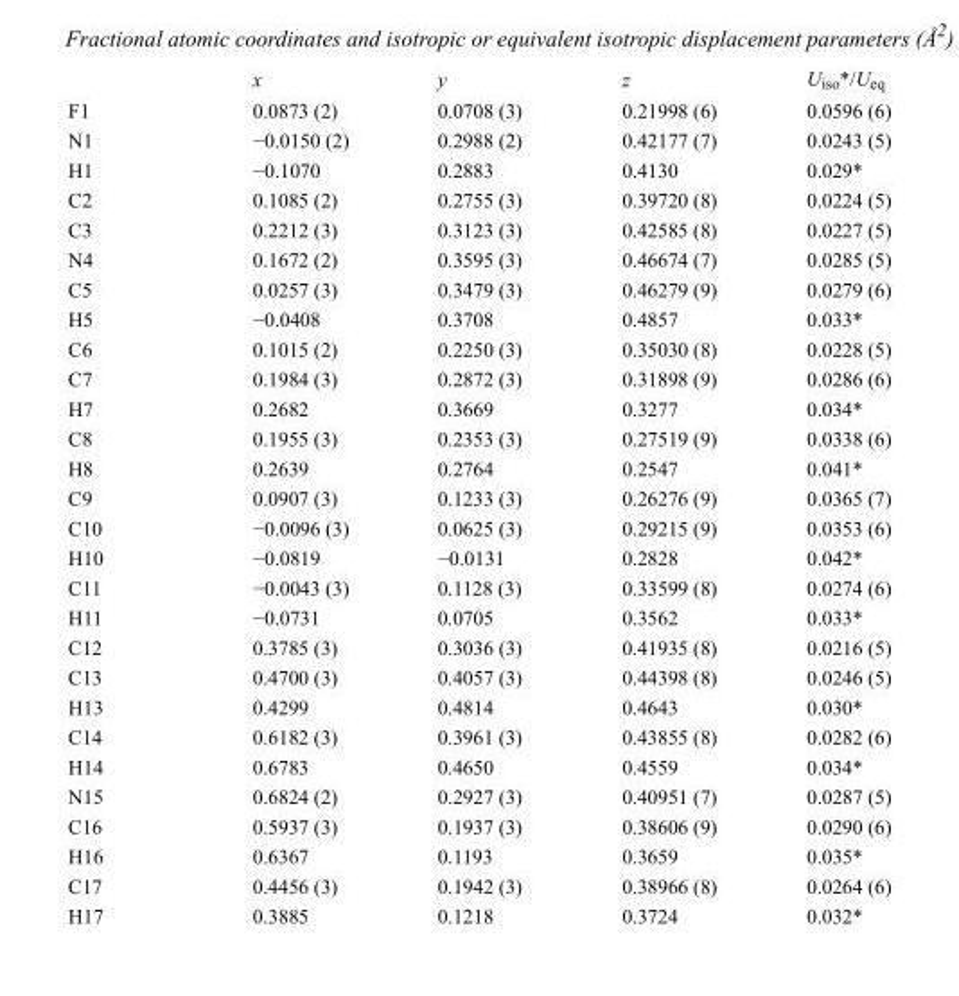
<table><thead><tr><td></td><td>x</td><td>y</td><td>z</td><td>U<sub>iso</sub>*/U<sub>eq</sub></td></tr></thead><tbody><tr><td>F1</td><td>0.0873 (2)</td><td>0.0708 (3)</td><td>0.21998 (6)</td><td>0.0596 (6)</td></tr><tr><td>N1</td><td>−0.0150 (2)</td><td>0.2988 (2)</td><td>0.42177 (7)</td><td>0.0243 (5)</td></tr><tr><td>H1</td><td>−0.1070</td><td>0.2883</td><td>0.4130</td><td>0.029*</td></tr><tr><td>C2</td><td>0.1085 (2)</td><td>0.2755 (3)</td><td>0.39720 (8)</td><td>0.0224 (5)</td></tr><tr><td>C3</td><td>0.2212 (3)</td><td>0.3123 (3)</td><td>0.42585 (8)</td><td>0.0227 (5)</td></tr><tr><td>N4</td><td>0.1672 (2)</td><td>0.3595 (3)</td><td>0.46674 (7)</td><td>0.0285 (5)</td></tr><tr><td>C5</td><td>0.0257 (3)</td><td>0.3479 (3)</td><td>0.46279 (9)</td><td>0.0279 (6)</td></tr><tr><td>H5</td><td>−0.0408</td><td>0.3708</td><td>0.4857</td><td>0.033*</td></tr><tr><td>C6</td><td>0.1015 (2)</td><td>0.2250 (3)</td><td>0.35030 (8)</td><td>0.0228 (5)</td></tr><tr><td>C7</td><td>0.1984 (3)</td><td>0.2872 (3)</td><td>0.31898 (9)</td><td>0.0286 (6)</td></tr><tr><td>H7</td><td>0.2682</td><td>0.3669</td><td>0.3277</td><td>0.034*</td></tr><tr><td>C8</td><td>0.1955 (3)</td><td>0.2353 (3)</td><td>0.27519 (9)</td><td>0.0338 (6)</td></tr><tr><td>H8</td><td>0.2639</td><td>0.2764</td><td>0.2547</td><td>0.041*</td></tr><tr><td>C9</td><td>0.0907 (3)</td><td>0.1233 (3)</td><td>0.26276 (9)</td><td>0.0365 (7)</td></tr><tr><td>C10</td><td>−0.0096 (3)</td><td>0.0625 (3)</td><td>0.29215 (9)</td><td>0.0353 (6)</td></tr><tr><td>H10</td><td>−0.0819</td><td>−0.0131</td><td>0.2828</td><td>0.042*</td></tr><tr><td>C11</td><td>−0.0043 (3)</td><td>0.1128 (3)</td><td>0.33599 (8)</td><td>0.0274 (6)</td></tr><tr><td>H11</td><td>−0.0731</td><td>0.0705</td><td>0.3562</td><td>0.033*</td></tr><tr><td>C12</td><td>0.3785 (3)</td><td>0.3036 (3)</td><td>0.41935 (8)</td><td>0.0216 (5)</td></tr><tr><td>C13</td><td>0.4700 (3)</td><td>0.4057 (3)</td><td>0.44398 (8)</td><td>0.0246 (5)</td></tr><tr><td>H13</td><td>0.4299</td><td>0.4814</td><td>0.4643</td><td>0.030*</td></tr><tr><td>C14</td><td>0.6182 (3)</td><td>0.3961 (3)</td><td>0.43855 (8)</td><td>0.0282 (6)</td></tr><tr><td>H14</td><td>0.6783</td><td>0.4650</td><td>0.4559</td><td>0.034*</td></tr><tr><td>N15</td><td>0.6824 (2)</td><td>0.2927 (3)</td><td>0.40951 (7)</td><td>0.0287 (5)</td></tr><tr><td>C16</td><td>0.5937 (3)</td><td>0.1937 (3)</td><td>0.38606 (9)</td><td>0.0290 (6)</td></tr><tr><td>H16</td><td>0.6367</td><td>0.1193</td><td>0.3659</td><td>0.035*</td></tr><tr><td>C17</td><td>0.4456 (3)</td><td>0.1942 (3)</td><td>0.38966 (8)</td><td>0.0264 (6)</td></tr><tr><td>H17</td><td>0.3885</td><td>0.1218</td><td>0.3724</td><td>0.032*</td></tr></tbody></table>